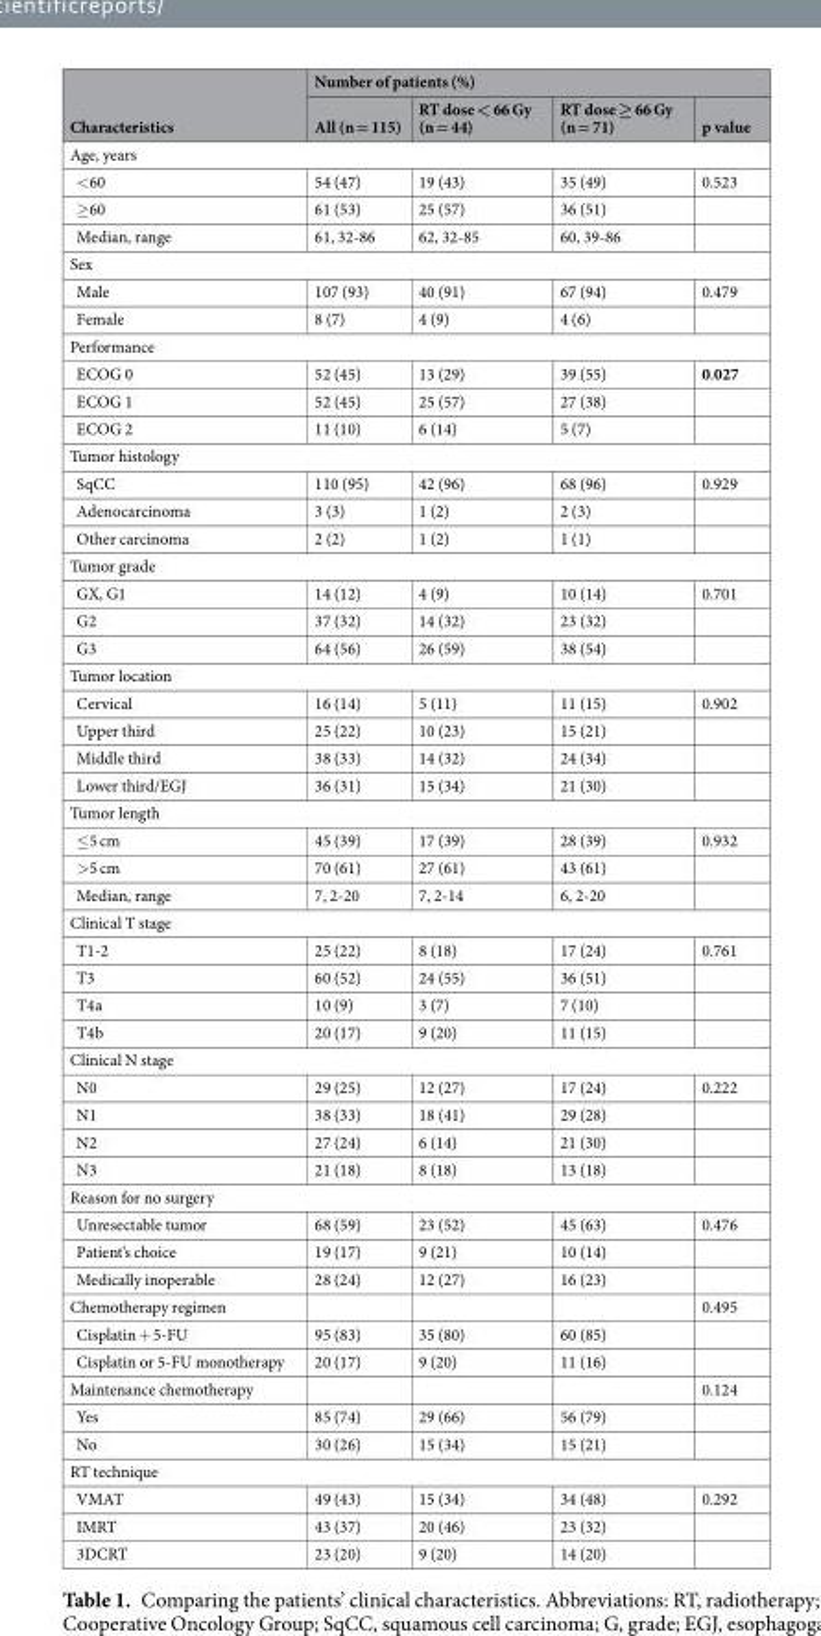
<table><thead><tr><td rowspan="2">Characteristics</td><td colspan="4">Number of patients (%)</td></tr><tr><td>All (n = 115)</td><td>RT dose &lt; 66 Gy (n = 44)</td><td>RT dose ≥ 66 Gy (n = 71)</td><td>p value</td></tr></thead><tbody><tr><td colspan="5">Age, years</td></tr><tr><td>&lt;60</td><td>54 (47)</td><td>19 (43)</td><td>35 (49)</td><td>0.523</td></tr><tr><td>≥60</td><td>61 (53)</td><td>25 (57)</td><td>36 (51)</td><td></td></tr><tr><td>Median, range</td><td>61, 32-86</td><td>62, 32-85</td><td>60, 39-86</td><td></td></tr><tr><td colspan="5">Sex</td></tr><tr><td>Male</td><td>107 (93)</td><td>40 (91)</td><td>67 (94)</td><td>0.479</td></tr><tr><td>Female</td><td>8 (7)</td><td>4 (9)</td><td>4 (6)</td><td></td></tr><tr><td colspan="5">Performance</td></tr><tr><td>ECOG 0</td><td>52 (45)</td><td>13 (29)</td><td>39 (55)</td><td>0.027</td></tr><tr><td>ECOG 1</td><td>52 (45)</td><td>25 (57)</td><td>27 (38)</td><td></td></tr><tr><td>ECOG 2</td><td>11 (10)</td><td>6 (14)</td><td>5 (7)</td><td></td></tr><tr><td colspan="5">Tumor histology</td></tr><tr><td>SqCC</td><td>110 (95)</td><td>42 (96)</td><td>68 (96)</td><td>0.929</td></tr><tr><td>Adenocarcinoma</td><td>3 (3)</td><td>1 (2)</td><td>2 (3)</td><td></td></tr><tr><td>Other carcinoma</td><td>2 (2)</td><td>1 (2)</td><td>1 (1)</td><td></td></tr><tr><td colspan="5">Tumor grade</td></tr><tr><td>GX, G1</td><td>14 (12)</td><td>4 (9)</td><td>10 (14)</td><td>0.701</td></tr><tr><td>G2</td><td>37 (32)</td><td>14 (32)</td><td>23 (32)</td><td></td></tr><tr><td>G3</td><td>64 (56)</td><td>26 (59)</td><td>38 (54)</td><td></td></tr><tr><td colspan="5">Tumor location</td></tr><tr><td>Cervical</td><td>16 (14)</td><td>5 (11)</td><td>11 (15)</td><td>0.902</td></tr><tr><td>Upper third</td><td>25 (22)</td><td>10 (23)</td><td>15 (21)</td><td></td></tr><tr><td>Middle third</td><td>38 (33)</td><td>14 (32)</td><td>24 (34)</td><td></td></tr><tr><td>Lower third/EGJ</td><td>36 (31)</td><td>15 (34)</td><td>21 (30)</td><td></td></tr><tr><td colspan="5">Tumor length</td></tr><tr><td>≤5 cm</td><td>45 (39)</td><td>17 (39)</td><td>28 (39)</td><td>0.932</td></tr><tr><td>&gt;5 cm</td><td>70 (61)</td><td>27 (61)</td><td>43 (61)</td><td></td></tr><tr><td>Median, range</td><td>7, 2-20</td><td>7, 2-14</td><td>6, 2-20</td><td></td></tr><tr><td colspan="5">Clinical T stage</td></tr><tr><td>T1-2</td><td>25 (22)</td><td>8 (18)</td><td>17 (24)</td><td>0.761</td></tr><tr><td>T3</td><td>60 (52)</td><td>24 (55)</td><td>36 (51)</td><td></td></tr><tr><td>T4a</td><td>10 (9)</td><td>3 (7)</td><td>7 (10)</td><td></td></tr><tr><td>T4b</td><td>20 (17)</td><td>9 (20)</td><td>11 (15)</td><td></td></tr><tr><td colspan="5">Clinical N stage</td></tr><tr><td>N0</td><td>29 (25)</td><td>12 (27)</td><td>17 (24)</td><td>0.222</td></tr><tr><td>N1</td><td>38 (33)</td><td>18 (41)</td><td>29 (28)</td><td></td></tr><tr><td>N2</td><td>27 (24)</td><td>6 (14)</td><td>21 (30)</td><td></td></tr><tr><td>N3</td><td>21 (18)</td><td>8 (18)</td><td>13 (18)</td><td></td></tr><tr><td colspan="5">Reason for no surgery</td></tr><tr><td>Unresectable tumor</td><td>68 (59)</td><td>23 (52)</td><td>45 (63)</td><td>0.476</td></tr><tr><td>Patient’s choice</td><td>19 (17)</td><td>9 (21)</td><td>10 (14)</td><td></td></tr><tr><td>Medically inoperable</td><td>28 (24)</td><td>12 (27)</td><td>16 (23)</td><td></td></tr><tr><td>Chemotherapy regimen</td><td></td><td></td><td></td><td>0.495</td></tr><tr><td>Cisplatin + 5-FU</td><td>95 (83)</td><td>35 (80)</td><td>60 (85)</td><td></td></tr><tr><td>Cisplatin or 5-FU monotherapy</td><td>20 (17)</td><td>9 (20)</td><td>11 (16)</td><td></td></tr><tr><td>Maintenance chemotherapy</td><td></td><td></td><td></td><td>0.124</td></tr><tr><td>Yes</td><td>85 (74)</td><td>29 (66)</td><td>56 (79)</td><td></td></tr><tr><td>No</td><td>30 (26)</td><td>15 (34)</td><td>15 (21)</td><td></td></tr><tr><td colspan="5">RT technique</td></tr><tr><td>VMAT</td><td>49 (43)</td><td>15 (34)</td><td>34 (48)</td><td>0.292</td></tr><tr><td>IMRT</td><td>43 (37)</td><td>20 (46)</td><td>23 (32)</td><td></td></tr><tr><td>3DCRT</td><td>23 (20)</td><td>9 (20)</td><td>14 (20)</td><td></td></tr></tbody></table>